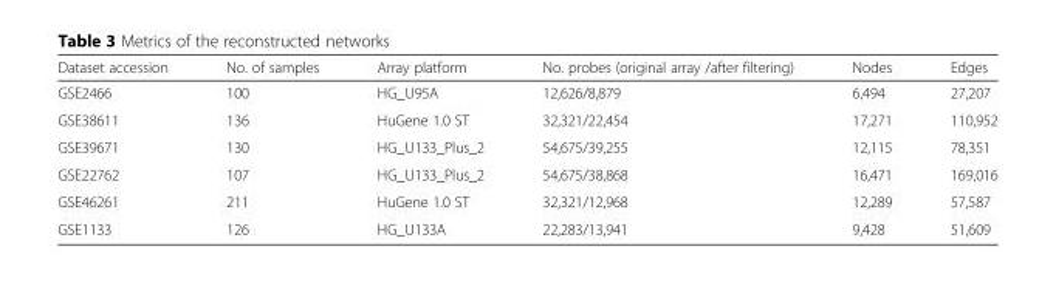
<table><thead><tr><td>Dataset accession</td><td>No. of samples</td><td>Array platform</td><td>No. probes (original array /after filtering)</td><td>Nodes</td><td>Edges</td></tr></thead><tbody><tr><td>GSE2466</td><td>100</td><td>HG_U95A</td><td>12,626/8,879</td><td>6,494</td><td>27,207</td></tr><tr><td>GSE38611</td><td>136</td><td>HuGene 1.0 ST</td><td>32,321/22,454</td><td>17,271</td><td>110,952</td></tr><tr><td>GSE39671</td><td>130</td><td>HG_U133_Plus_2</td><td>54,675/39,255</td><td>12,115</td><td>78,351</td></tr><tr><td>GSE22762</td><td>107</td><td>HG_U133_Plus_2</td><td>54,675/38,868</td><td>16,471</td><td>169,016</td></tr><tr><td>GSE46261</td><td>211</td><td>HuGene 1.0 ST</td><td>32,321/12,968</td><td>12,289</td><td>57,587</td></tr><tr><td>GSE1133</td><td>126</td><td>HG_U133A</td><td>22,283/13,941</td><td>9,428</td><td>51,609</td></tr></tbody></table>